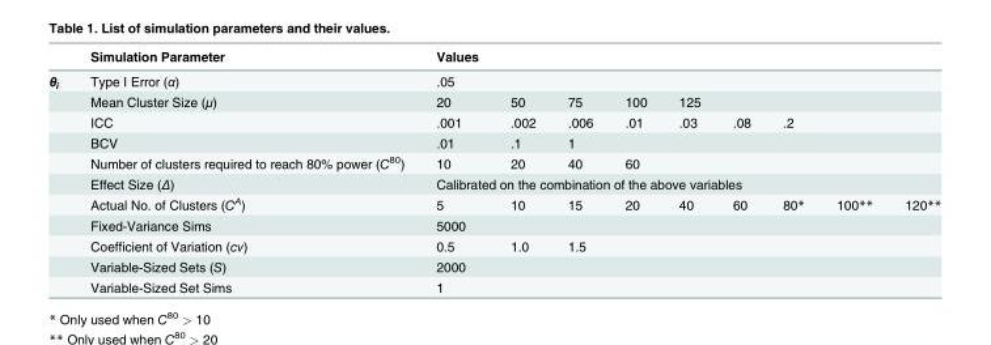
<table><thead><tr><td></td><td>Simulation Parameter</td><td>Values</td><td></td><td></td><td></td><td></td><td></td><td></td><td></td><td></td></tr></thead><tbody><tr><td rowspan="11">θ<sub>i</sub></td><td>Type I Error (α)</td><td>.05</td><td></td><td></td><td></td><td></td><td></td><td></td><td></td><td></td></tr><tr><td>Mean Cluster Size (μ)</td><td>20</td><td>50</td><td>75</td><td>100</td><td>125</td><td></td><td></td><td></td><td></td></tr><tr><td>ICC</td><td>.001</td><td>.002</td><td>.006</td><td>.01</td><td>.03</td><td>.08</td><td>.2</td><td></td><td></td></tr><tr><td>BCV</td><td>.01</td><td>.1</td><td>1</td><td></td><td></td><td></td><td></td><td></td><td></td></tr><tr><td>Number of clusters required to reach 80% power (C<sup>80</sup>)</td><td>10</td><td>20</td><td>40</td><td>60</td><td></td><td></td><td></td><td></td><td></td></tr><tr><td>Effect Size (Δ)</td><td colspan="9">Calibrated on the combination of the above variables</td></tr><tr><td>Actual No. of Clusters (C<sup>A</sup>)</td><td>5</td><td>10</td><td>15</td><td>20</td><td>40</td><td>60</td><td>80*</td><td>100**</td><td>120**</td></tr><tr><td>Fixed-Variance Sims</td><td>5000</td><td></td><td></td><td></td><td></td><td></td><td></td><td></td><td></td></tr><tr><td>Coefficient of Variation (cv)</td><td>0.5</td><td>1.0</td><td>1.5</td><td></td><td></td><td></td><td></td><td></td><td></td></tr><tr><td>Variable-Sized Sets (S)</td><td>2000</td><td></td><td></td><td></td><td></td><td></td><td></td><td></td><td></td></tr><tr><td>Variable-Sized Set Sims</td><td>1</td><td></td><td></td><td></td><td></td><td></td><td></td><td></td><td></td></tr></tbody></table>